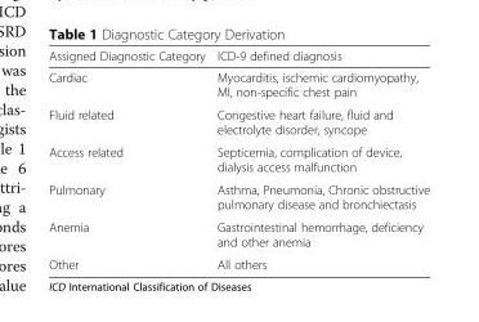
<table><thead><tr><td>Assigned Diagnostic Category</td><td>ICD-9 defined diagnosis</td></tr></thead><tbody><tr><td>Cardiac</td><td>Myocarditis, ischemic cardiomyopathy, MI, non-specific chest pain</td></tr><tr><td>Fluid related</td><td>Congestive heart failure, fluid and electrolyte disorder, syncope</td></tr><tr><td>Access related</td><td>Septicemia, complication of device, dialysis access malfunction</td></tr><tr><td>Pulmonary</td><td>Asthma, Pneumonia, Chronic obstructive pulmonary disease and bronchiectasis</td></tr><tr><td>Anemia</td><td>Gastrointestinal hemorrhage, deficiency and other anemia</td></tr><tr><td>Other</td><td>All others</td></tr></tbody></table>